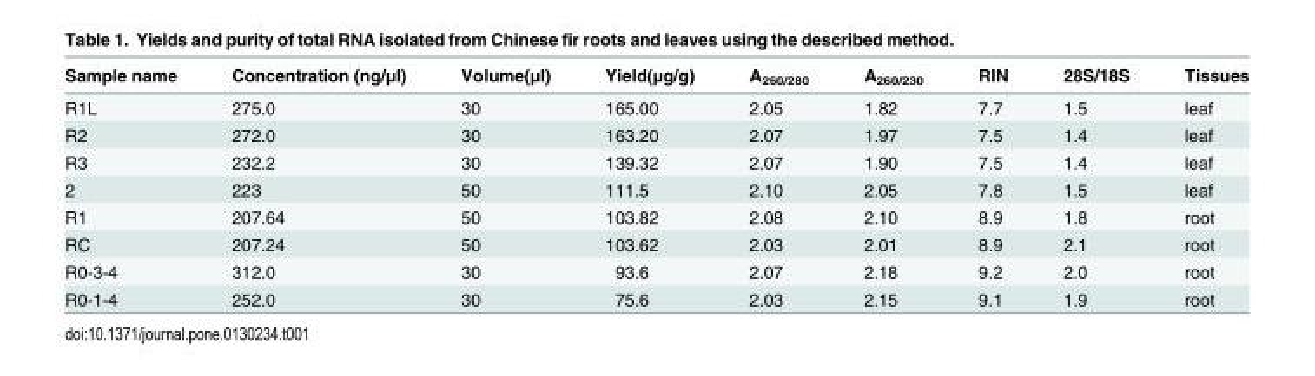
<table><thead><tr><td>Sample name</td><td>Concentration (ng/μl)</td><td>Volume(μl)</td><td>Yield(μg/g)</td><td>A<sub>260/280</sub></td><td>A<sub>260/230</sub></td><td>RIN</td><td>28S/18S</td><td>Tissues</td></tr></thead><tbody><tr><td>R1L</td><td>275.0</td><td>30</td><td>165.00</td><td>2.05</td><td>1.82</td><td>7.7</td><td>1.5</td><td>leaf</td></tr><tr><td>R2</td><td>272.0</td><td>30</td><td>163.20</td><td>2.07</td><td>1.97</td><td>7.5</td><td>1.4</td><td>leaf</td></tr><tr><td>R3</td><td>232.2</td><td>30</td><td>139.32</td><td>2.07</td><td>1.90</td><td>7.5</td><td>1.4</td><td>leaf</td></tr><tr><td>2</td><td>223</td><td>50</td><td>111.5</td><td>2.10</td><td>2.05</td><td>7.8</td><td>1.5</td><td>leaf</td></tr><tr><td>R1</td><td>207.64</td><td>50</td><td>103.82</td><td>2.08</td><td>2.10</td><td>8.9</td><td>1.8</td><td>root</td></tr><tr><td>RC</td><td>207.24</td><td>50</td><td>103.62</td><td>2.03</td><td>2.01</td><td>8.9</td><td>2.1</td><td>root</td></tr><tr><td>R0-3-4</td><td>312.0</td><td>30</td><td>93.6</td><td>2.07</td><td>2.18</td><td>9.2</td><td>2.0</td><td>root</td></tr><tr><td>R0-1-4</td><td>252.0</td><td>30</td><td>75.6</td><td>2.03</td><td>2.15</td><td>9.1</td><td>1.9</td><td>root</td></tr></tbody></table>